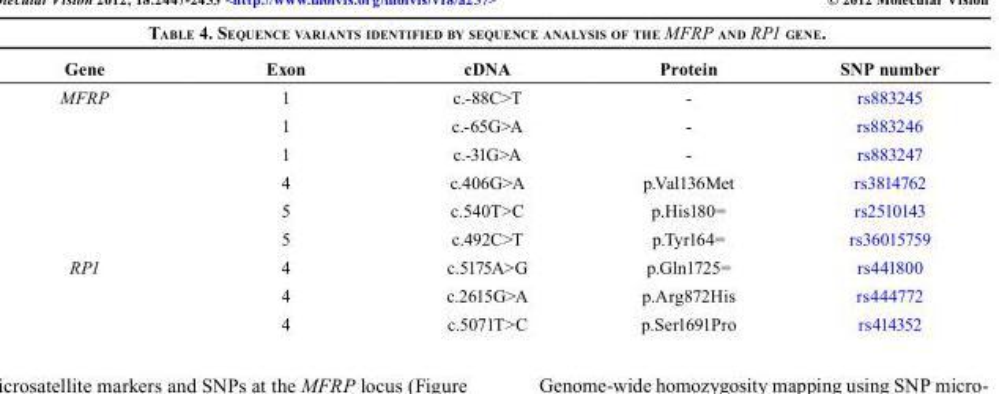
<table><thead><tr><td>Gene</td><td>Exon</td><td>cDNA</td><td>Protein</td><td>SNP number</td></tr></thead><tbody><tr><td rowspan="6">MFRP</td><td>1</td><td>c.-88C&gt;T</td><td>-</td><td>rs883245</td></tr><tr><td>1</td><td>c.-65G&gt;A</td><td>-</td><td>rs883246</td></tr><tr><td>1</td><td>c.-31G&gt;A</td><td>-</td><td>rs883247</td></tr><tr><td>4</td><td>c.406G&gt;A</td><td>p.Val136Met</td><td>rs3814762</td></tr><tr><td>5</td><td>c.540T&gt;C</td><td>p.His180=</td><td>rs2510143</td></tr><tr><td>5</td><td>c.492C&gt;T</td><td>p.Tyr164=</td><td>rs36015759</td></tr><tr><td rowspan="3">RP1</td><td>4</td><td>c.5175A&gt;G</td><td>p.Gln1725=</td><td>rs441800</td></tr><tr><td>4</td><td>c.2615G&gt;A</td><td>p.Arg872His</td><td>rs444772</td></tr><tr><td>4</td><td>c.5071T&gt;C</td><td>p.Ser1691Pro</td><td>rs414352</td></tr></tbody></table>